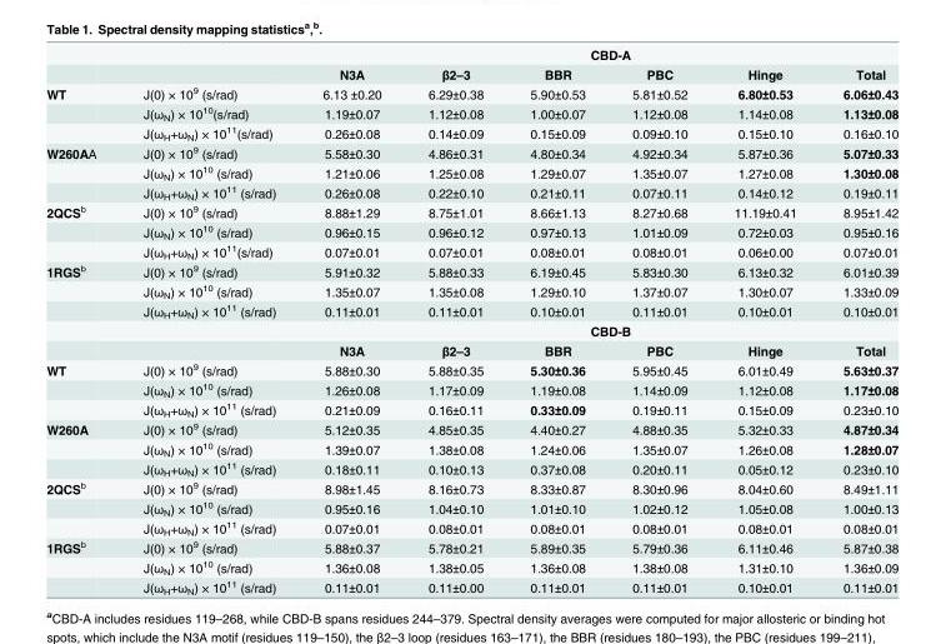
<table><thead><tr><td rowspan="2"></td><td rowspan="2"></td><td colspan="6">CBD-A</td></tr><tr><td>N3A</td><td>β2–3</td><td>BBR</td><td>PBC</td><td>Hinge</td><td>Total</td></tr></thead><tbody><tr><td rowspan="3">WT</td><td>J(0) × 10<sup>9</sup> (s/rad)</td><td>6.13 ±0.20</td><td>6.29±0.38</td><td>5.90±0.53</td><td>5.81±0.52</td><td>6.80±0.53</td><td>6.06±0.43</td></tr><tr><td>J(ω<sub>N</sub>) × 10<sup>10</sup>(s/rad)</td><td>1.19±0.07</td><td>1.12±0.08</td><td>1.00±0.07</td><td>1.12±0.08</td><td>1.14±0.08</td><td>1.13±0.08</td></tr><tr><td>J(ω<sub>H</sub>+ω<sub>N</sub>) × 10<sup>11</sup>(s/rad)</td><td>0.26±0.08</td><td>0.14±0.09</td><td>0.15±0.09</td><td>0.09±0.10</td><td>0.15±0.10</td><td>0.16±0.10</td></tr><tr><td rowspan="3">W260AA</td><td>J(0) × 10<sup>9</sup> (s/rad)</td><td>5.58±0.30</td><td>4.86±0.31</td><td>4.80±0.34</td><td>4.92±0.34</td><td>5.87±0.36</td><td>5.07±0.33</td></tr><tr><td>J(ω<sub>N</sub>) × 10<sup>10</sup> (s/rad)</td><td>1.21±0.06</td><td>1.25±0.08</td><td>1.29±0.07</td><td>1.35±0.07</td><td>1.27±0.08</td><td>1.30±0.08</td></tr><tr><td>J(ω<sub>H</sub>+ω<sub>N</sub>) × 10<sup>11</sup> (s/rad)</td><td>0.26±0.08</td><td>0.22±0.10</td><td>0.21±0.11</td><td>0.07±0.11</td><td>0.14±0.12</td><td>0.19±0.11</td></tr><tr><td rowspan="3">2QCS<sup>b</sup></td><td>J(0) × 10<sup>9</sup> (s/rad)</td><td>8.88±1.29</td><td>8.75±1.01</td><td>8.66±1.13</td><td>8.27±0.68</td><td>11.19±0.41</td><td>8.95±1.42</td></tr><tr><td>J(ω<sub>N</sub>) × 10<sup>10</sup> (s/rad)</td><td>0.96±0.15</td><td>0.96±0.12</td><td>0.97±0.13</td><td>1.01±0.09</td><td>0.72±0.03</td><td>0.95±0.16</td></tr><tr><td>J(ω<sub>H</sub>+ω<sub>N</sub>) × 10<sup>11</sup>(s/rad)</td><td>0.07±0.01</td><td>0.07±0.01</td><td>0.08±0.01</td><td>0.08±0.01</td><td>0.06±0.00</td><td>0.07±0.01</td></tr><tr><td rowspan="5">1RGS<sup>b</sup></td><td>J(0) × 10<sup>9</sup> (s/rad)</td><td>5.91±0.32</td><td>5.88±0.33</td><td>6.19±0.45</td><td>5.83±0.30</td><td>6.13±0.32</td><td>6.01±0.39</td></tr><tr><td>J(ω<sub>N</sub>) × 10<sup>10</sup> (s/rad)</td><td>1.35±0.07</td><td>1.35±0.08</td><td>1.29±0.10</td><td>1.37±0.07</td><td>1.30±0.07</td><td>1.33±0.09</td></tr><tr><td>J(ω<sub>H</sub>+ω<sub>N</sub>) × 10<sup>11</sup> (s/rad)</td><td>0.11±0.01</td><td>0.11±0.01</td><td>0.10±0.01</td><td>0.11±0.01</td><td>0.10±0.01</td><td>0.10±0.01</td></tr><tr><td></td><td colspan="6">CBD-B</td></tr><tr><td></td><td>N3A</td><td>β2–3</td><td>BBR</td><td>PBC</td><td>Hinge</td><td>Total</td></tr><tr><td rowspan="3">WT</td><td>J(0) × 10<sup>9</sup> (s/rad)</td><td>5.88±0.30</td><td>5.88±0.35</td><td>5.30±0.36</td><td>5.95±0.45</td><td>6.01±0.49</td><td>5.63±0.37</td></tr><tr><td>J(ω<sub>N</sub>) × 10<sup>10</sup> (s/rad)</td><td>1.26±0.08</td><td>1.17±0.09</td><td>1.19±0.08</td><td>1.14±0.09</td><td>1.12±0.08</td><td>1.17±0.08</td></tr><tr><td>J(ω<sub>H</sub>+ω<sub>N</sub>) × 10<sup>11</sup> (s/rad)</td><td>0.21±0.09</td><td>0.16±0.11</td><td>0.33±0.09</td><td>0.19±0.11</td><td>0.15±0.09</td><td>0.23±0.10</td></tr><tr><td rowspan="3">W260A</td><td>J(0) × 10<sup>9</sup> (s/rad)</td><td>5.12±0.35</td><td>4.85±0.35</td><td>4.40±0.27</td><td>4.88±0.35</td><td>5.32±0.33</td><td>4.87±0.34</td></tr><tr><td>J(ω<sub>N</sub>) × 10<sup>10</sup> (s/rad)</td><td>1.39±0.07</td><td>1.38±0.08</td><td>1.24±0.06</td><td>1.35±0.07</td><td>1.26±0.08</td><td>1.28±0.07</td></tr><tr><td>J(ω<sub>H</sub>+ω<sub>N</sub>) × 10<sup>11</sup> (s/rad)</td><td>0.18±0.11</td><td>0.10±0.13</td><td>0.37±0.08</td><td>0.20±0.11</td><td>0.05±0.12</td><td>0.23±0.10</td></tr><tr><td rowspan="3">2QCS<sup>b</sup></td><td>J(0) × 10<sup>9</sup> (s/rad)</td><td>8.98±1.45</td><td>8.16±0.73</td><td>8.33±0.87</td><td>8.30±0.96</td><td>8.04±0.60</td><td>8.49±1.11</td></tr><tr><td>J(ω<sub>N</sub>) × 10<sup>10</sup> (s/rad)</td><td>0.95±0.16</td><td>1.04±0.10</td><td>1.01±0.10</td><td>1.02±0.12</td><td>1.05±0.08</td><td>1.00±0.13</td></tr><tr><td>J(ω<sub>H</sub>+ω<sub>N</sub>) × 10<sup>11</sup> (s/rad)</td><td>0.07±0.01</td><td>0.08±0.01</td><td>0.08±0.01</td><td>0.08±0.01</td><td>0.08±0.01</td><td>0.08±0.01</td></tr><tr><td rowspan="3">1RGS<sup>b</sup></td><td>J(0) × 10<sup>9</sup> (s/rad)</td><td>5.88±0.37</td><td>5.78±0.21</td><td>5.89±0.35</td><td>5.79±0.36</td><td>6.11±0.46</td><td>5.87±0.38</td></tr><tr><td>J(ω<sub>N</sub>) × 10<sup>10</sup> (s/rad)</td><td>1.36±0.08</td><td>1.38±0.05</td><td>1.36±0.08</td><td>1.38±0.08</td><td>1.31±0.10</td><td>1.36±0.09</td></tr><tr><td>J(ω<sub>H</sub>+ω<sub>N</sub>) × 10<sup>11</sup> (s/rad)</td><td>0.11±0.01</td><td>0.11±0.00</td><td>0.11±0.01</td><td>0.11±0.01</td><td>0.10±0.01</td><td>0.11±0.01</td></tr></tbody></table>